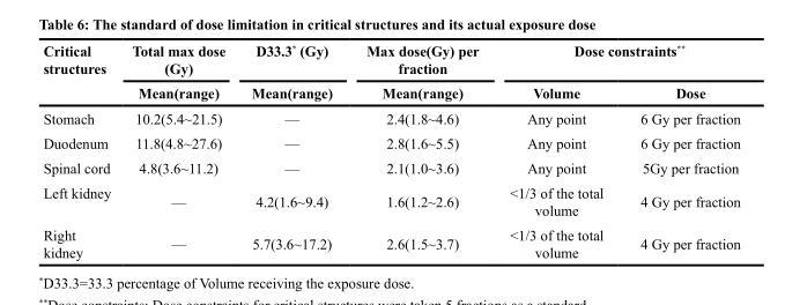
<table><thead><tr><td rowspan="2">Critical structures</td><td rowspan="2">Total max dose (Gy) Mean(range)</td><td rowspan="2">D33.3* (Gy) Mean(range)</td><td rowspan="2">Max dose(Gy) per fraction Mean(range)</td><td colspan="2">Dose constraints**</td></tr><tr><td>Volume</td><td>Dose</td></tr></thead><tbody><tr><td>Stomach</td><td>10.2(5.4~21.5)</td><td>—</td><td>2.4(1.8~4.6)</td><td>Any point</td><td>6 Gy per fraction</td></tr><tr><td>Duodenum</td><td>11.8(4.8~27.6)</td><td>—</td><td>2.8(1.6~5.5)</td><td>Any point</td><td>6 Gy per fraction</td></tr><tr><td>Spinal cord</td><td>4.8(3.6~11.2)</td><td>—</td><td>2.1(1.0~3.6)</td><td>Any point</td><td>5Gy per fraction</td></tr><tr><td>Left kidney</td><td>—</td><td>4.2(1.6~9.4)</td><td>1.6(1.2~2.6)</td><td>&lt;1/3 of the total volume</td><td>4 Gy per fraction</td></tr><tr><td>Right kidney</td><td>—</td><td>5.7(3.6~17.2)</td><td>2.6(1.5~3.7)</td><td>&lt;1/3 of the total volume</td><td>4 Gy per fraction</td></tr></tbody></table>